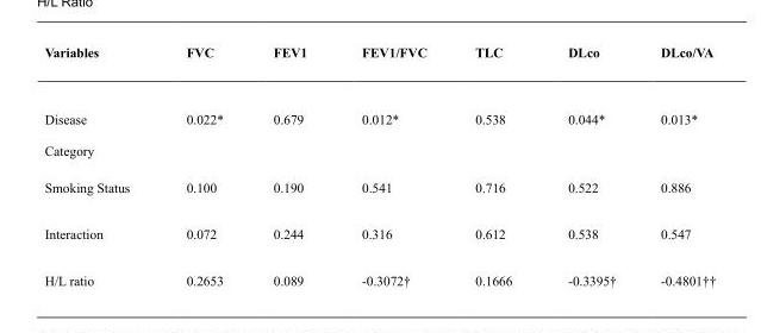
<table><thead><tr><td>Variables</td><td>FVC</td><td>FEV1</td><td>FEV1/FVC</td><td>TLC</td><td>DLco</td><td>DLco/VA</td></tr></thead><tbody><tr><td>Disease Category</td><td>0.022*</td><td>0.679</td><td>0.012*</td><td>0.538</td><td>0.044*</td><td>0.013*</td></tr><tr><td>Smoking Status</td><td>0.100</td><td>0.190</td><td>0.541</td><td>0.716</td><td>0.522</td><td>0.886</td></tr><tr><td>Interaction</td><td>0.072</td><td>0.244</td><td>0.316</td><td>0.612</td><td>0.538</td><td>0.547</td></tr><tr><td>H/L ratio</td><td>0.2653</td><td>0.089</td><td>-0.3072†</td><td>0.1666</td><td>-0.3395†</td><td>-0.4801††</td></tr></tbody></table>